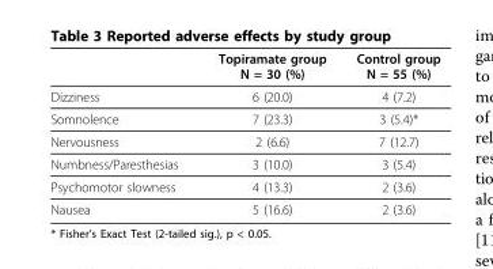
<table><thead><tr><td></td><td>Topiramate group N = 30 (%)</td><td>Control group N = 55 (%)</td></tr></thead><tbody><tr><td>Dizziness</td><td>6 (20.0)</td><td>4 (7.2)</td></tr><tr><td>Somnolence</td><td>7 (23.3)</td><td>3 (5.4)*</td></tr><tr><td>Nervousness</td><td>2 (6.6)</td><td>7 (12.7)</td></tr><tr><td>Numbness/Paresthesias</td><td>3 (10.0)</td><td>3 (5.4)</td></tr><tr><td>Psychomotor slowness</td><td>4 (13.3)</td><td>2 (3.6)</td></tr><tr><td>Nausea</td><td>5 (16.6)</td><td>2 (3.6)</td></tr></tbody></table>